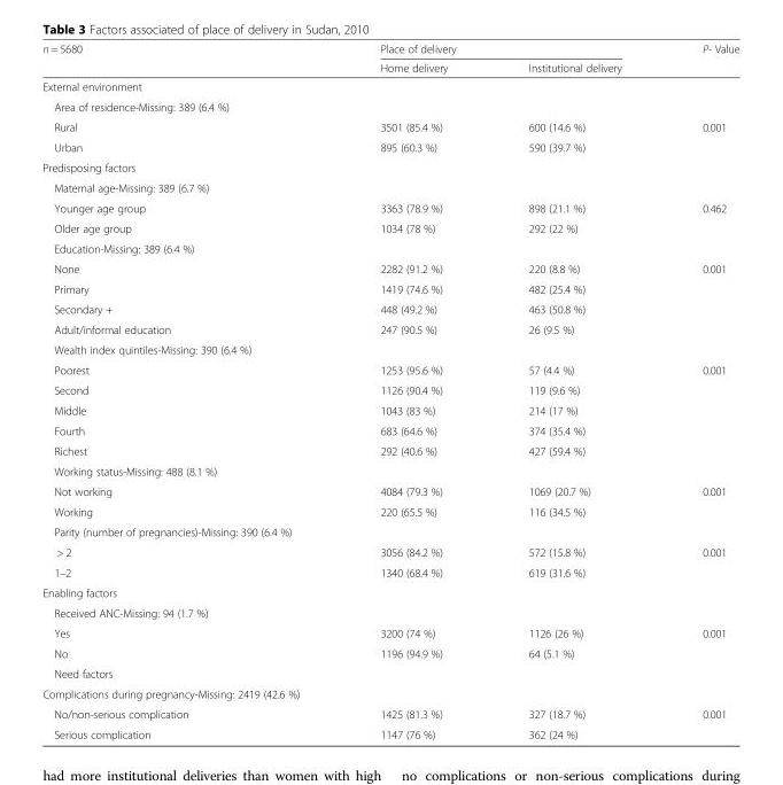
<table><thead><tr><td rowspan="2">n = 5680</td><td colspan="2">Place of delivery</td><td rowspan="2">P- Value</td></tr><tr><td>Home delivery</td><td>Institutional delivery</td></tr></thead><tbody><tr><td colspan="4">External environment</td></tr><tr><td colspan="4">Area of residence-Missing: 389 (6.4 %)</td></tr><tr><td>Rural</td><td>3501 (85.4 %)</td><td>600 (14.6 %)</td><td rowspan="3">0.001</td></tr><tr><td>Urban</td><td>895 (60.3 %)</td><td>590 (39.7 %)</td></tr><tr><td colspan="3">Predisposing factors</td></tr><tr><td colspan="4">Maternal age-Missing: 389 (6.7 %)</td></tr><tr><td>Younger age group</td><td>3363 (78.9 %)</td><td>898 (21.1 %)</td><td rowspan="2">0.462</td></tr><tr><td>Older age group</td><td>1034 (78 %)</td><td>292 (22 %)</td></tr><tr><td colspan="4">Education-Missing: 389 (6.4 %)</td></tr><tr><td>None</td><td>2282 (91.2 %)</td><td>220 (8.8 %)</td><td rowspan="4">0.001</td></tr><tr><td>Primary</td><td>1419 (74.6 %)</td><td>482 (25.4 %)</td></tr><tr><td>Secondary +</td><td>448 (49.2 %)</td><td>463 (50.8 %)</td></tr><tr><td>Adult/informal education</td><td>247 (90.5 %)</td><td>26 (9.5 %)</td></tr><tr><td colspan="4">Wealth index quintiles-Missing: 390 (6.4 %)</td></tr><tr><td>Poorest</td><td>1253 (95.6 %)</td><td>57 (4.4 %)</td><td rowspan="5">0.001</td></tr><tr><td>Second</td><td>1126 (90.4 %)</td><td>119 (9.6 %)</td></tr><tr><td>Middle</td><td>1043 (83 %)</td><td>214 (17 %)</td></tr><tr><td>Fourth</td><td>683 (64.6 %)</td><td>374 (35.4 %)</td></tr><tr><td>Richest</td><td>292 (40.6 %)</td><td>427 (59.4 %)</td></tr><tr><td colspan="4">Working status-Missing: 488 (8.1 %)</td></tr><tr><td>Not working</td><td>4084 (79.3 %)</td><td>1069 (20.7 %)</td><td rowspan="2">0.001</td></tr><tr><td>Working</td><td>220 (65.5 %)</td><td>116 (34.5 %)</td></tr><tr><td colspan="4">Parity (number of pregnancies)-Missing: 390 (6.4 %)</td></tr><tr><td>&gt; 2</td><td>3056 (84.2 %)</td><td>572 (15.8 %)</td><td rowspan="2">0.001</td></tr><tr><td>1–2</td><td>1340 (68.4 %)</td><td>619 (31.6 %)</td></tr><tr><td colspan="4">Enabling factors</td></tr><tr><td colspan="4">Received ANC-Missing: 94 (1.7 %)</td></tr><tr><td>Yes</td><td>3200 (74 %)</td><td>1126 (26 %)</td><td rowspan="3">0.001</td></tr><tr><td>No</td><td>1196 (94.9 %)</td><td>64 (5.1 %)</td></tr><tr><td colspan="3">Need factors</td></tr><tr><td colspan="4">Complications during pregnancy-Missing: 2419 (42.6 %)</td></tr><tr><td>No/non-serious complication</td><td>1425 (81.3 %)</td><td>327 (18.7 %)</td><td rowspan="2">0.001</td></tr><tr><td>Serious complication</td><td>1147 (76 %)</td><td>362 (24 %)</td></tr></tbody></table>